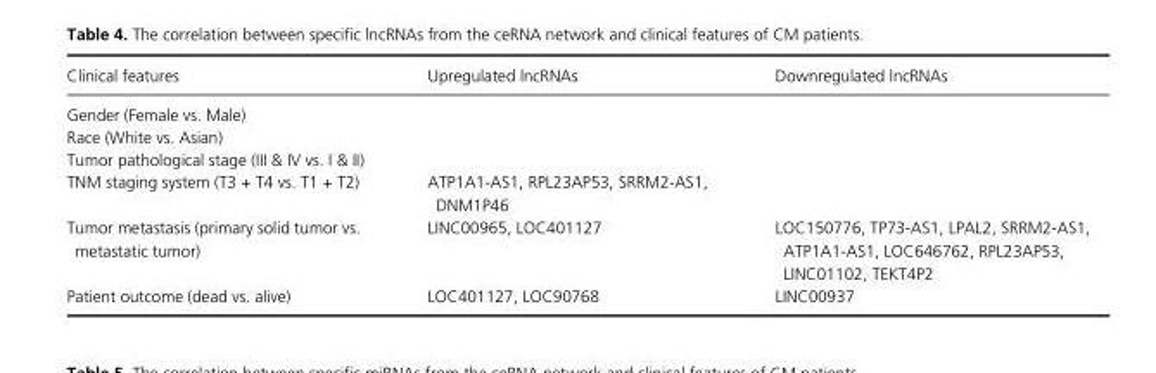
<table><thead><tr><td>Clinical features</td><td>Upregulated lncRNAs</td><td>Downregulated lncRNAs</td></tr></thead><tbody><tr><td colspan="3">Gender (Female vs. Male)</td></tr><tr><td colspan="3">Race (White vs. Asian)</td></tr><tr><td colspan="3">Tumor pathological stage (III &amp; IV vs. I &amp; II)</td></tr><tr><td>TNM staging system (T3 + T4 vs. T1 + T2)</td><td>ATP1A1- AS1, RPL23AP53, SRRM2- AS1, DNM1P46</td><td></td></tr><tr><td>Tumor metastasis (primary solid tumor vs. metastatic tumor)</td><td>LINC00965, LOC401127</td><td>LOC150776, TP73- AS1, LPAL2, SRRM2- AS1, ATP1A1- AS1, LOC646762, RPL23AP53, LINC01102, TEKT4P2</td></tr><tr><td>Patient outcome (dead vs. alive)</td><td>LOC401127, LOC90768</td><td>LINC00937</td></tr></tbody></table>